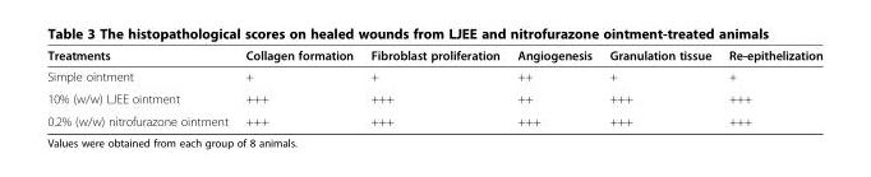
<table><thead><tr><td>Treatments</td><td>Collagen formation</td><td>Fibroblast proliferation</td><td>Angiogenesis</td><td>Granulation tissue</td><td>Re-epithelization</td></tr></thead><tbody><tr><td>Simple ointment</td><td>+</td><td>+</td><td>++</td><td>+</td><td>+</td></tr><tr><td>10% (w/w) LJEE ointment</td><td>+++</td><td>+++</td><td>++</td><td>+++</td><td>+++</td></tr><tr><td>0.2% (w/w) nitrofurazone ointment</td><td>+++</td><td>+++</td><td>+++</td><td>+++</td><td>+++</td></tr></tbody></table>